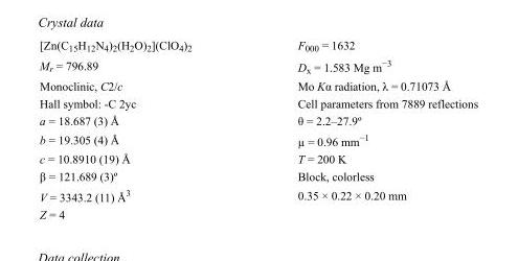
<table><tbody><tr><td>[Zn(C<sub>15</sub>H<sub>12</sub>N<sub>4</sub>)<sub>2</sub>(H<sub>2</sub>O)<sub>2</sub>](ClO<sub>4</sub>)<sub>2</sub></td><td>F000 = 1632</td></tr><tr><td>M<sub>r</sub> = 796.89</td><td>D<sub>x</sub> = 1.583 Mg m<sup>−3</sup></td></tr><tr><td>Monoclinic, C2/c</td><td>Mo Kα radiation, λ = 0.71073 Å</td></tr><tr><td>Hall symbol: -C 2yc</td><td>Cell parameters from 7889 reflections</td></tr><tr><td>a = 18.687 (3) Å</td><td>θ = 2.2–27.9º</td></tr><tr><td>b = 19.305 (4) Å</td><td>µ = 0.96 mm<sup>−1</sup></td></tr><tr><td>c = 10.8910 (19) Å</td><td>T = 200 K</td></tr><tr><td>β = 121.689 (3)º</td><td>Block, colorless</td></tr><tr><td>V = 3343.2 (11) Å<sup>3</sup></td><td>0.35 × 0.22 × 0.20 mm</td></tr><tr><td>Z = 4</td><td></td></tr></tbody></table>